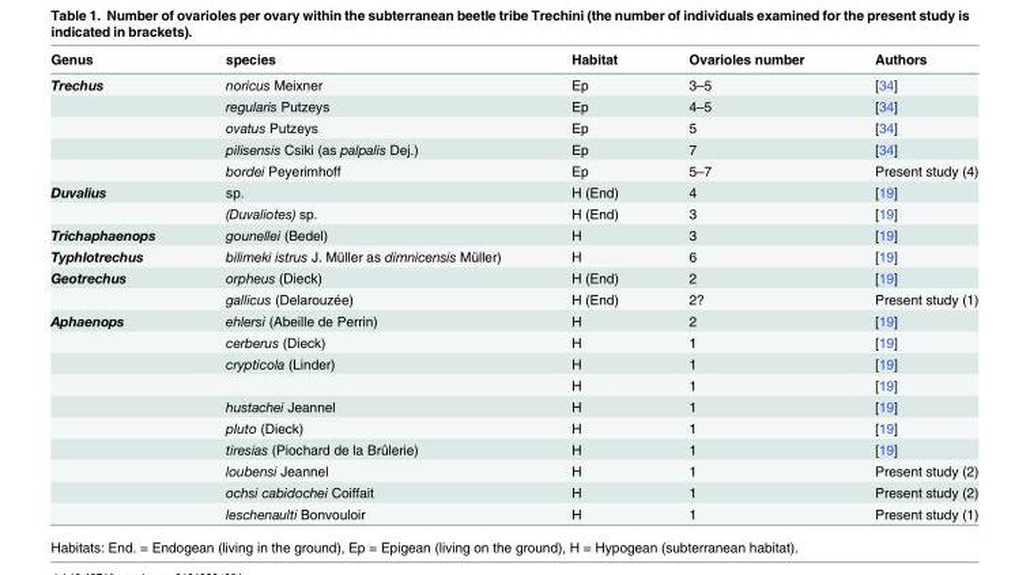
<table><thead><tr><td>Genus</td><td>species</td><td>Habitat</td><td>Ovarioles number</td><td>Authors</td></tr></thead><tbody><tr><td rowspan="5">Trechus</td><td>noricus Meixner</td><td>Ep</td><td>3–5</td><td>[34]</td></tr><tr><td>regularis Putzeys</td><td>Ep</td><td>4–5</td><td>[34]</td></tr><tr><td>ovatus Putzeys</td><td>Ep</td><td>5</td><td>[34]</td></tr><tr><td>pilisensis Csiki (as palpalis Dej.)</td><td>Ep</td><td>7</td><td>[34]</td></tr><tr><td>bordei Peyerimhoff</td><td>Ep</td><td>5–7</td><td>Present study (4)</td></tr><tr><td rowspan="2">Duvalius</td><td>sp.</td><td>H (End)</td><td>4</td><td>[19]</td></tr><tr><td>(Duvaliotes) sp.</td><td>H (End)</td><td>3</td><td>[19]</td></tr><tr><td>Trichaphaenops</td><td>gounellei (Bedel)</td><td>H</td><td>3</td><td>[19]</td></tr><tr><td>Typhlotrechus</td><td>bilimeki istrus J. Müller as dimnicensis Müller)</td><td>H</td><td>6</td><td>[19]</td></tr><tr><td rowspan="2">Geotrechus</td><td>orpheus (Dieck)</td><td>H (End)</td><td>2</td><td>[19]</td></tr><tr><td>gallicus (Delarouzée)</td><td>H (End)</td><td>2?</td><td>Present study (1)</td></tr><tr><td rowspan="10">Aphaenops</td><td>ehlersi (Abeille de Perrin)</td><td>H</td><td>2</td><td>[19]</td></tr><tr><td>cerberus (Dieck)</td><td>H</td><td>1</td><td>[19]</td></tr><tr><td>crypticola (Linder)</td><td>H</td><td>1</td><td>[19]</td></tr><tr><td></td><td>H</td><td>1</td><td>[19]</td></tr><tr><td>hustachei Jeannel</td><td>H</td><td>1</td><td>[19]</td></tr><tr><td>pluto (Dieck)</td><td>H</td><td>1</td><td>[19]</td></tr><tr><td>tiresias (Piochard de la Brûlerie)</td><td>H</td><td>1</td><td>[19]</td></tr><tr><td>loubensi Jeannel</td><td>H</td><td>1</td><td>Present study (2)</td></tr><tr><td>ochsi cabidochei Coiffait</td><td>H</td><td>1</td><td>Present study (2)</td></tr><tr><td>leschenaulti Bonvouloir</td><td>H</td><td>1</td><td>Present study (1)</td></tr></tbody></table>